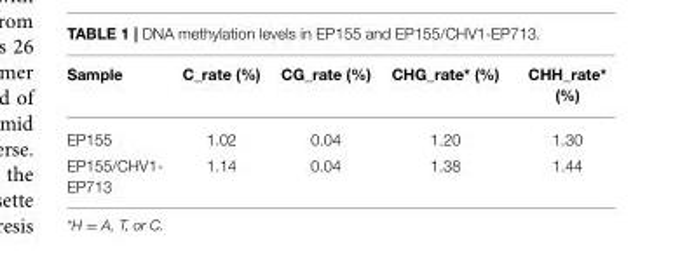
<table><thead><tr><td>Sample</td><td>C_rate (%)</td><td>CG_rate (%)</td><td>CHG_rate* (%)</td><td>CHH_rate* (%)</td></tr></thead><tbody><tr><td>EP155</td><td>1.02</td><td>0.04</td><td>1.20</td><td>1.30</td></tr><tr><td>EP155/CHV1- EP713</td><td>1.14</td><td>0.04</td><td>1.38</td><td>1.44</td></tr></tbody></table>